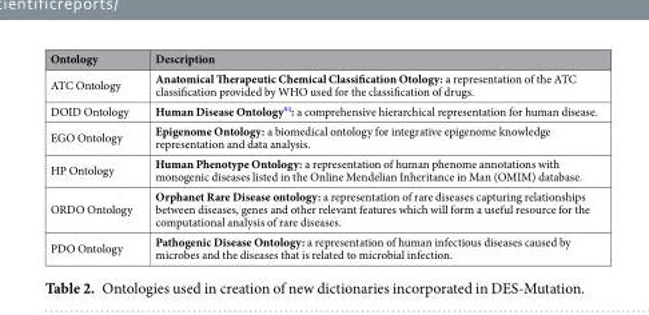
<table><thead><tr><td>Ontology</td><td>Description</td></tr></thead><tbody><tr><td>ATC Ontology</td><td>Anatomical Therapeutic Chemical Classification Otology: a representation of the ATC classification provided by WHO used for the classification of drugs.</td></tr><tr><td>DOID Ontology</td><td>Human Disease Ontology<sup>84</sup>: a comprehensive hierarchical representation for human disease.</td></tr><tr><td>EGO Ontology</td><td>Epigenome Ontology: a biomedical ontology for integrative epigenome knowledge representation and data analysis.</td></tr><tr><td>HP Ontology</td><td>Human Phenotype Ontology: a representation of human phenome annotations with monogenic diseases listed in the Online Mendelian Inheritance in Man (OMIM) database.</td></tr><tr><td>ORDO Ontology</td><td>Orphanet Rare Disease ontology: a representation of rare diseases capturing relationships between diseases, genes and other relevant features which will form a useful resource for the computational analysis of rare diseases.</td></tr><tr><td>PDO Ontology</td><td>Pathogenic Disease Ontology: a representation of human infectious diseases caused by microbes and the diseases that is related to microbial infection.</td></tr></tbody></table>